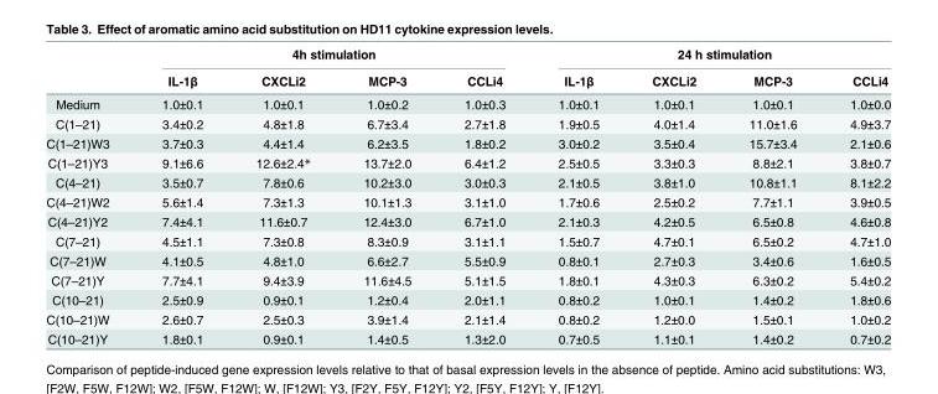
<table><thead><tr><td rowspan="2"></td><td colspan="4">4h stimulation</td><td colspan="4">24 h stimulation</td></tr><tr><td>IL-1β</td><td>CXCLi2</td><td>MCP-3</td><td>CCLi4</td><td>IL-1β</td><td>CXCLi2</td><td>MCP-3</td><td>CCLi4</td></tr></thead><tbody><tr><td>Medium</td><td>1.0±0.1</td><td>1.0±0.1</td><td>1.0±0.2</td><td>1.0±0.3</td><td>1.0±0.1</td><td>1.0±0.1</td><td>1.0±0.1</td><td>1.0±0.0</td></tr><tr><td>C(1–21)</td><td>3.4±0.2</td><td>4.8±1.8</td><td>6.7±3.4</td><td>2.7±1.8</td><td>1.9±0.5</td><td>4.0±1.4</td><td>11.0±1.6</td><td>4.9±3.7</td></tr><tr><td>C(1–21)W3</td><td>3.7±0.3</td><td>4.4±1.4</td><td>6.2±3.5</td><td>1.8±0.2</td><td>3.0±0.2</td><td>3.5±0.4</td><td>15.7±3.4</td><td>2.1±0.6</td></tr><tr><td>C(1–21)Y3</td><td>9.1±6.6</td><td>12.6±2.4*</td><td>13.7±2.0</td><td>6.4±1.2</td><td>2.5±0.5</td><td>3.3±0.3</td><td>8.8±2.1</td><td>3.8±0.7</td></tr><tr><td>C(4–21)</td><td>3.5±0.7</td><td>7.8±0.6</td><td>10.2±3.0</td><td>3.0±0.3</td><td>2.1±0.5</td><td>3.8±1.0</td><td>10.8±1.1</td><td>8.1±2.2</td></tr><tr><td>C(4–21)W2</td><td>5.6±1.4</td><td>7.3±1.3</td><td>10.1±1.3</td><td>3.1±1.0</td><td>1.7±0.6</td><td>2.5±0.2</td><td>7.7±1.1</td><td>3.9±0.5</td></tr><tr><td>C(4–21)Y2</td><td>7.4±4.1</td><td>11.6±0.7</td><td>12.4±3.0</td><td>6.7±1.0</td><td>2.1±0.3</td><td>4.2±0.5</td><td>6.5±0.8</td><td>4.6±0.8</td></tr><tr><td>C(7–21)</td><td>4.5±1.1</td><td>7.3±0.8</td><td>8.3±0.9</td><td>3.1±1.1</td><td>1.5±0.7</td><td>4.7±0.1</td><td>6.5±0.2</td><td>4.7±1.0</td></tr><tr><td>C(7–21)W</td><td>4.1±0.5</td><td>4.8±1.0</td><td>6.6±2.7</td><td>5.5±0.9</td><td>0.8±0.1</td><td>2.7±0.3</td><td>3.4±0.6</td><td>1.6±0.5</td></tr><tr><td>C(7–21)Y</td><td>7.7±4.1</td><td>9.4±3.9</td><td>11.6±4.5</td><td>5.1±1.5</td><td>1.8±0.1</td><td>4.3±0.3</td><td>6.3±0.2</td><td>5.4±0.2</td></tr><tr><td>C(10–21)</td><td>2.5±0.9</td><td>0.9±0.1</td><td>1.2±0.4</td><td>2.0±1.1</td><td>0.8±0.2</td><td>1.0±0.1</td><td>1.4±0.2</td><td>1.8±0.6</td></tr><tr><td>C(10–21)W</td><td>2.6±0.7</td><td>2.5±0.3</td><td>3.9±1.4</td><td>2.1±1.4</td><td>0.8±0.2</td><td>1.2±0.0</td><td>1.5±0.1</td><td>1.0±0.2</td></tr><tr><td>C(10–21)Y</td><td>1.8±0.1</td><td>0.9±0.1</td><td>1.4±0.5</td><td>1.3±2.0</td><td>0.7±0.5</td><td>1.1±0.1</td><td>1.4±0.2</td><td>0.7±0.2</td></tr></tbody></table>